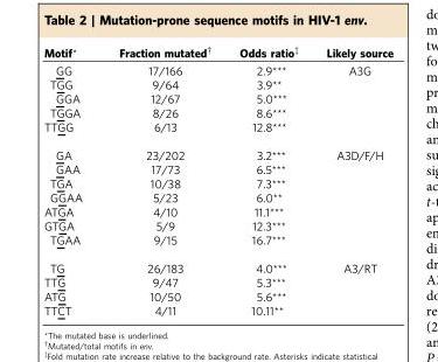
<table><thead><tr><td>Motif*</td><td>Fraction mutated†</td><td>Odds ratio‡</td><td>Likely source</td></tr></thead><tbody><tr><td>GG</td><td>17/166</td><td>2.9***</td><td>A3G</td></tr><tr><td>TGG</td><td>9/64</td><td>3.9**</td><td></td></tr><tr><td>GGA</td><td>12/67</td><td>5.0***</td><td></td></tr><tr><td>TGGA</td><td>8/26</td><td>8.6***</td><td></td></tr><tr><td>TTGG</td><td>6/13</td><td>12.8***</td><td></td></tr><tr><td>GA</td><td>23/202</td><td>3.2***</td><td>A3D/F/H</td></tr><tr><td>GAA</td><td>17/73</td><td>6.5***</td><td></td></tr><tr><td>TGA</td><td>10/38</td><td>7.3***</td><td></td></tr><tr><td>GGAA</td><td>5/23</td><td>6.0**</td><td></td></tr><tr><td>ATGA</td><td>4/10</td><td>11.1***</td><td></td></tr><tr><td>GTGA</td><td>5/9</td><td>12.3***</td><td></td></tr><tr><td>TGAA</td><td>9/15</td><td>16.7***</td><td></td></tr><tr><td>TG</td><td>26/183</td><td>4.0***</td><td>A3/RT</td></tr><tr><td>TTG</td><td>9/47</td><td>5.3***</td><td></td></tr><tr><td>ATG</td><td>10/50</td><td>5.6***</td><td></td></tr><tr><td>TTCT</td><td>4/11</td><td>10.11**</td><td></td></tr></tbody></table>